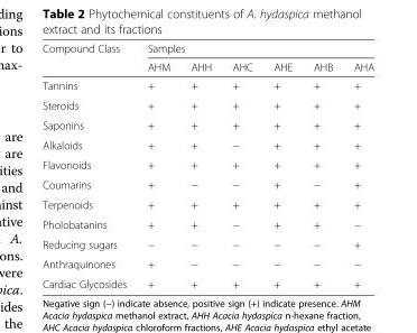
<table><thead><tr><td rowspan="2">Compound Class</td><td colspan="6">Samples</td></tr><tr><td>AHM</td><td>AHH</td><td>AHC</td><td>AHE</td><td>AHB</td><td>AHA</td></tr></thead><tbody><tr><td>Tannins</td><td>+</td><td>+</td><td>+</td><td>+</td><td>+</td><td>+</td></tr><tr><td>Steroids</td><td>+</td><td>+</td><td>+</td><td>+</td><td>+</td><td>+</td></tr><tr><td>Saponins</td><td>+</td><td>+</td><td>+</td><td>+</td><td>+</td><td>+</td></tr><tr><td>Alkaloids</td><td>+</td><td>+</td><td>−</td><td>+</td><td>+</td><td>+</td></tr><tr><td>Flavonoids</td><td>+</td><td>+</td><td>+</td><td>+</td><td>+</td><td>+</td></tr><tr><td>Coumarins</td><td>+</td><td>−</td><td>−</td><td>+</td><td>−</td><td>+</td></tr><tr><td>Terpenoids</td><td>+</td><td>+</td><td>+</td><td>+</td><td>+</td><td>+</td></tr><tr><td>Pholobatanins</td><td>+</td><td>+</td><td>−</td><td>+</td><td>+</td><td>−</td></tr><tr><td>Reducing sugars</td><td>−</td><td>−</td><td>−</td><td>−</td><td>−</td><td>+</td></tr><tr><td>Anthraquinones</td><td>+</td><td>−</td><td>−</td><td>−</td><td>−</td><td>−</td></tr><tr><td>Cardiac Glycosides</td><td>+</td><td>+</td><td>+</td><td>+</td><td>+</td><td>+</td></tr></tbody></table>